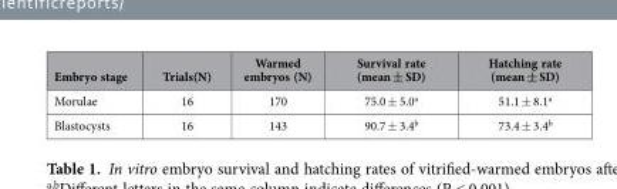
<table><thead><tr><td>Embryo stage</td><td>Trials(N)</td><td>Warmed embryos (N)</td><td>Survival rate (mean ± SD)</td><td>Hatching rate (mean ± SD)</td></tr></thead><tbody><tr><td>Morulae</td><td>16</td><td>170</td><td>75.0 ± 5.0<sup>a</sup></td><td>51.1 ± 8.1<sup>a</sup></td></tr><tr><td>Blastocysts</td><td>16</td><td>143</td><td>90.7 ± 3.4<sup>b</sup></td><td>73.4 ± 3.4<sup>b</sup></td></tr></tbody></table>